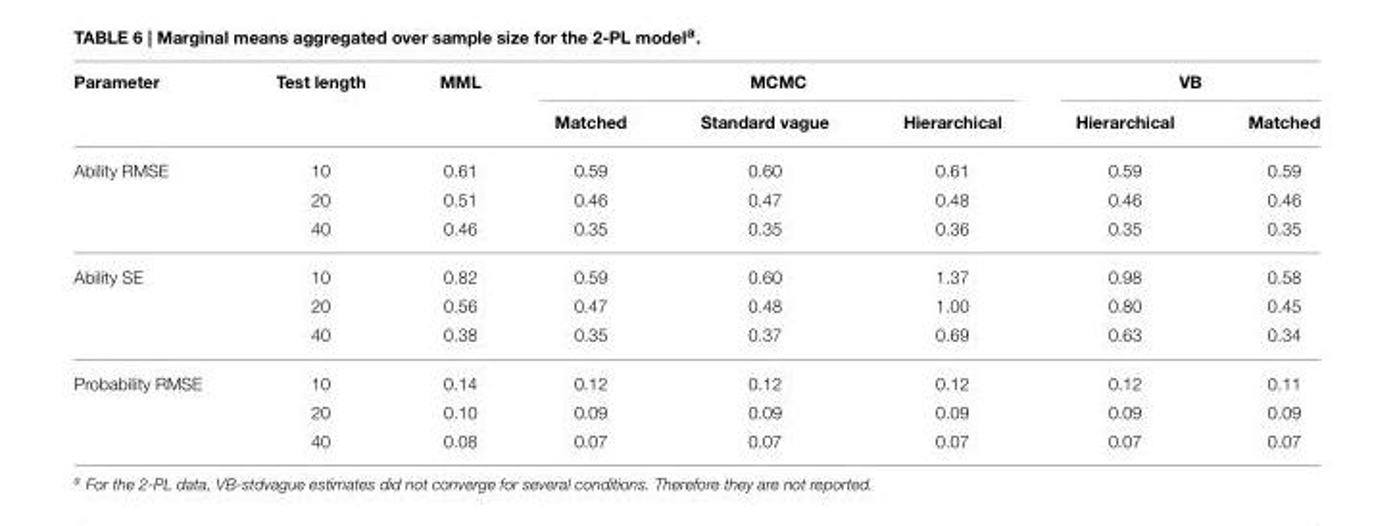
<table><thead><tr><td rowspan="2">Parameter</td><td rowspan="2">Test length</td><td rowspan="2">MML</td><td colspan="3">MCMC</td><td colspan="2">VB</td></tr><tr><td>Matched</td><td>Standard vague</td><td>Hierarchical</td><td>Hierarchical</td><td>Matched</td></tr></thead><tbody><tr><td rowspan="3">Ability RMSE</td><td>10</td><td>0.61</td><td>0.59</td><td>0.60</td><td>0.61</td><td>0.59</td><td>0.59</td></tr><tr><td>20</td><td>0.51</td><td>0.46</td><td>0.47</td><td>0.48</td><td>0.46</td><td>0.46</td></tr><tr><td>40</td><td>0.46</td><td>0.35</td><td>0.35</td><td>0.36</td><td>0.35</td><td>0.35</td></tr><tr><td rowspan="3">Ability SE</td><td>10</td><td>0.82</td><td>0.59</td><td>0.60</td><td>1.37</td><td>0.98</td><td>0.58</td></tr><tr><td>20</td><td>0.56</td><td>0.47</td><td>0.48</td><td>1.00</td><td>0.80</td><td>0.45</td></tr><tr><td>40</td><td>0.38</td><td>0.35</td><td>0.37</td><td>0.69</td><td>0.63</td><td>0.34</td></tr><tr><td rowspan="3">Probability RMSE</td><td>10</td><td>0.14</td><td>0.12</td><td>0.12</td><td>0.12</td><td>0.12</td><td>0.11</td></tr><tr><td>20</td><td>0.10</td><td>0.09</td><td>0.09</td><td>0.09</td><td>0.09</td><td>0.09</td></tr><tr><td>40</td><td>0.08</td><td>0.07</td><td>0.07</td><td>0.07</td><td>0.07</td><td>0.07</td></tr></tbody></table>